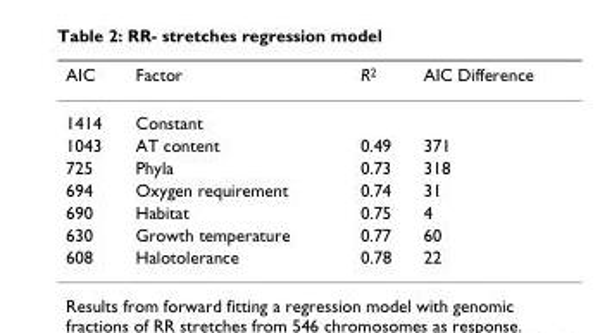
<table><thead><tr><td>AIC</td><td>Factor</td><td>R<sup>2</sup></td><td>AIC Difference</td></tr></thead><tbody><tr><td>1414</td><td>Constant</td><td></td><td></td></tr><tr><td>1043</td><td>AT content</td><td>0.49</td><td>371</td></tr><tr><td>725</td><td>Phyla</td><td>0.73</td><td>318</td></tr><tr><td>694</td><td>Oxygen requirement</td><td>0.74</td><td>31</td></tr><tr><td>690</td><td>Habitat</td><td>0.75</td><td>4</td></tr><tr><td>630</td><td>Growth temperature</td><td>0.77</td><td>60</td></tr><tr><td>608</td><td>Halotolerance</td><td>0.78</td><td>22</td></tr></tbody></table>